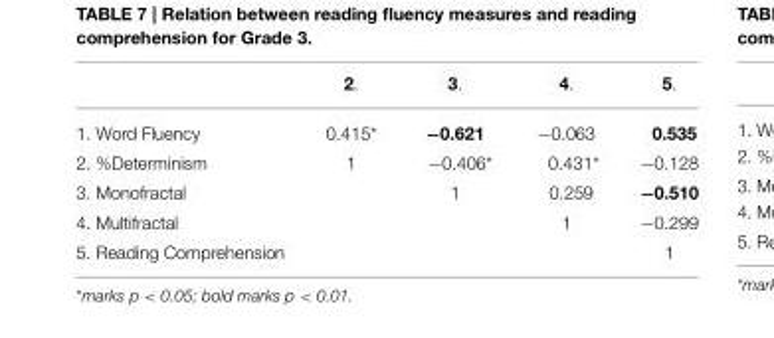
<table><thead><tr><td></td><td>2.</td><td>3.</td><td>4.</td><td>5.</td></tr></thead><tbody><tr><td>1. Word Fluency</td><td>0.415*</td><td>−0.621</td><td>−0.063</td><td>0.535</td></tr><tr><td>2. %Determinism</td><td>1</td><td>−0.406*</td><td>0.431*</td><td>−0.128</td></tr><tr><td>3. Monofractal</td><td></td><td>1</td><td>0.259</td><td>−0.510</td></tr><tr><td>4. Multifractal</td><td></td><td></td><td>1</td><td>−0.299</td></tr><tr><td>5. Reading Comprehension</td><td></td><td></td><td></td><td>1</td></tr></tbody></table>